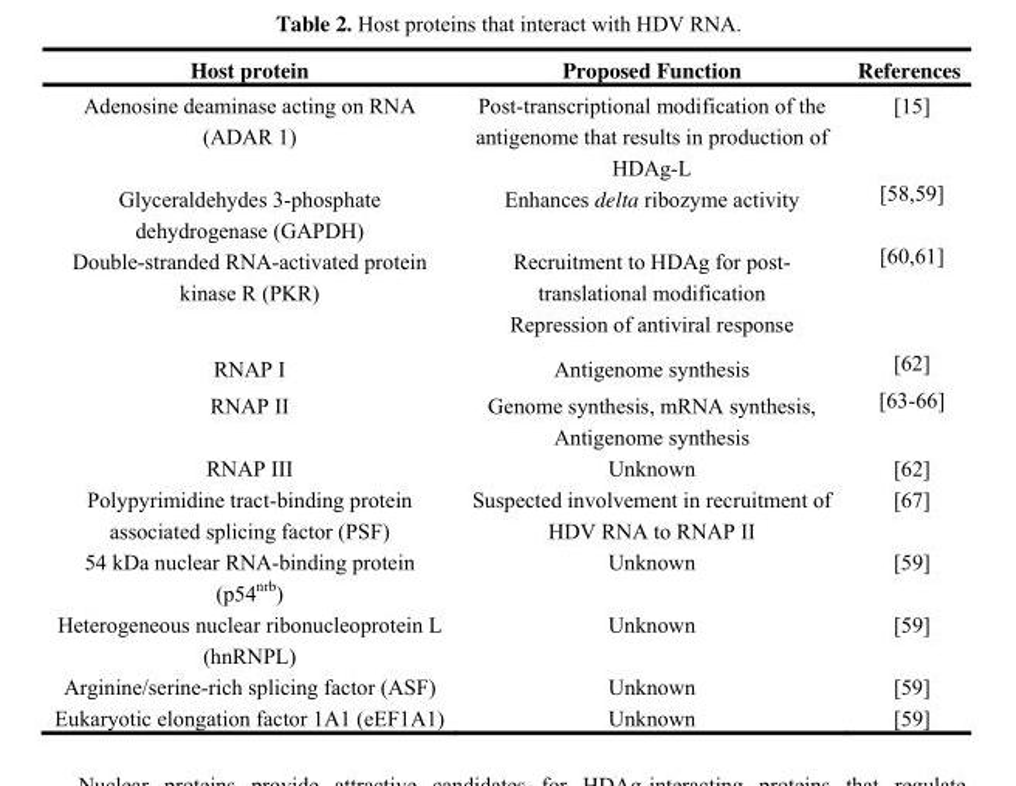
<table><thead><tr><td>Host protein</td><td>Proposed Function</td><td>References</td></tr></thead><tbody><tr><td>Adenosine deaminase acting on RNA (ADAR 1)</td><td>Post-transcriptional modification of the antigenome that results in production of HDAg-L</td><td>[15]</td></tr><tr><td>Glyceraldehydes 3-phosphate dehydrogenase (GAPDH)</td><td>Enhances delta ribozyme activity</td><td>[58,59]</td></tr><tr><td>Double-stranded RNA-activated protein kinase R (PKR)</td><td>Recruitment to HDAg for post- translational modification Repression of antiviral response</td><td>[60,61]</td></tr><tr><td>RNAP I</td><td>Antigenome synthesis</td><td>[62]</td></tr><tr><td>RNAP II</td><td>Genome synthesis, mRNA synthesis, Antigenome synthesis</td><td>[63-66]</td></tr><tr><td>RNAP III</td><td>Unknown</td><td>[62]</td></tr><tr><td>Polypyrimidine tract-binding protein associated splicing factor (PSF)</td><td>Suspected involvement in recruitment of HDV RNA to RNAP II</td><td>[67]</td></tr><tr><td>54 kDa nuclear RNA-binding protein (p54<sup>nrb</sup>)</td><td>Unknown</td><td>[59]</td></tr><tr><td>Heterogeneous nuclear ribonucleoprotein L (hnRNPL)</td><td>Unknown</td><td>[59]</td></tr><tr><td>Arginine/serine-rich splicing factor (ASF)</td><td>Unknown</td><td>[59]</td></tr><tr><td>Eukaryotic elongation factor 1A1 (eEF1A1)</td><td>Unknown</td><td>[59]</td></tr></tbody></table>